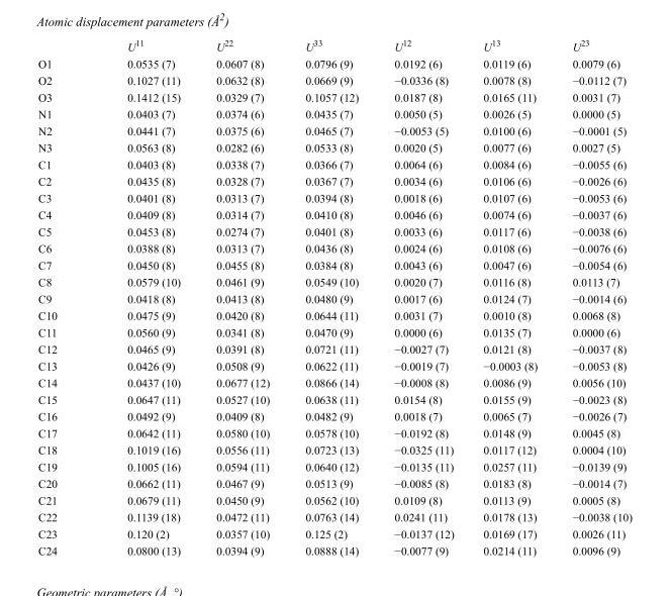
<table><thead><tr><td></td><td>U<sup>11</sup></td><td>U<sup>22</sup></td><td>U<sup>33</sup></td><td>U<sup>12</sup></td><td>U<sup>13</sup></td><td>U<sup>23</sup></td></tr></thead><tbody><tr><td>O1</td><td>0.0535 (7)</td><td>0.0607 (8)</td><td>0.0796 (9)</td><td>0.0192 (6)</td><td>0.0119 (6)</td><td>0.0079 (6)</td></tr><tr><td>O2</td><td>0.1027 (11)</td><td>0.0632 (8)</td><td>0.0669 (9)</td><td>−0.0336 (8)</td><td>0.0078 (8)</td><td>−0.0112 (7)</td></tr><tr><td>O3</td><td>0.1412 (15)</td><td>0.0329 (7)</td><td>0.1057 (12)</td><td>0.0187 (8)</td><td>0.0165 (11)</td><td>0.0031 (7)</td></tr><tr><td>N1</td><td>0.0403 (7)</td><td>0.0374 (6)</td><td>0.0435 (7)</td><td>0.0050 (5)</td><td>0.0026 (5)</td><td>0.0000 (5)</td></tr><tr><td>N2</td><td>0.0441 (7)</td><td>0.0375 (6)</td><td>0.0465 (7)</td><td>−0.0053 (5)</td><td>0.0100 (6)</td><td>−0.0001 (5)</td></tr><tr><td>N3</td><td>0.0563 (8)</td><td>0.0282 (6)</td><td>0.0533 (8)</td><td>0.0020 (5)</td><td>0.0077 (6)</td><td>0.0027 (5)</td></tr><tr><td>C1</td><td>0.0403 (8)</td><td>0.0338 (7)</td><td>0.0366 (7)</td><td>0.0064 (6)</td><td>0.0084 (6)</td><td>−0.0055 (6)</td></tr><tr><td>C2</td><td>0.0435 (8)</td><td>0.0328 (7)</td><td>0.0367 (7)</td><td>0.0034 (6)</td><td>0.0106 (6)</td><td>−0.0026 (6)</td></tr><tr><td>C3</td><td>0.0401 (8)</td><td>0.0313 (7)</td><td>0.0394 (8)</td><td>0.0018 (6)</td><td>0.0107 (6)</td><td>−0.0053 (6)</td></tr><tr><td>C4</td><td>0.0409 (8)</td><td>0.0314 (7)</td><td>0.0410 (8)</td><td>0.0046 (6)</td><td>0.0074 (6)</td><td>−0.0037 (6)</td></tr><tr><td>C5</td><td>0.0453 (8)</td><td>0.0274 (7)</td><td>0.0401 (8)</td><td>0.0033 (6)</td><td>0.0117 (6)</td><td>−0.0038 (6)</td></tr><tr><td>C6</td><td>0.0388 (8)</td><td>0.0313 (7)</td><td>0.0436 (8)</td><td>0.0024 (6)</td><td>0.0108 (6)</td><td>−0.0076 (6)</td></tr><tr><td>C7</td><td>0.0450 (8)</td><td>0.0455 (8)</td><td>0.0384 (8)</td><td>0.0043 (6)</td><td>0.0047 (6)</td><td>−0.0054 (6)</td></tr><tr><td>C8</td><td>0.0579 (10)</td><td>0.0461 (9)</td><td>0.0549 (10)</td><td>0.0020 (7)</td><td>0.0116 (8)</td><td>0.0113 (7)</td></tr><tr><td>C9</td><td>0.0418 (8)</td><td>0.0413 (8)</td><td>0.0480 (9)</td><td>0.0017 (6)</td><td>0.0124 (7)</td><td>−0.0014 (6)</td></tr><tr><td>C10</td><td>0.0475 (9)</td><td>0.0420 (8)</td><td>0.0644 (11)</td><td>0.0031 (7)</td><td>0.0010 (8)</td><td>0.0068 (8)</td></tr><tr><td>C11</td><td>0.0560 (9)</td><td>0.0341 (8)</td><td>0.0470 (9)</td><td>0.0000 (6)</td><td>0.0135 (7)</td><td>0.0000 (6)</td></tr><tr><td>C12</td><td>0.0465 (9)</td><td>0.0391 (8)</td><td>0.0721 (11)</td><td>−0.0027 (7)</td><td>0.0121 (8)</td><td>−0.0037 (8)</td></tr><tr><td>C13</td><td>0.0426 (9)</td><td>0.0508 (9)</td><td>0.0622 (11)</td><td>−0.0019 (7)</td><td>−0.0003 (8)</td><td>−0.0053 (8)</td></tr><tr><td>C14</td><td>0.0437 (10)</td><td>0.0677 (12)</td><td>0.0866 (14)</td><td>−0.0008 (8)</td><td>0.0086 (9)</td><td>0.0056 (10)</td></tr><tr><td>C15</td><td>0.0647 (11)</td><td>0.0527 (10)</td><td>0.0638 (11)</td><td>0.0154 (8)</td><td>0.0155 (9)</td><td>−0.0023 (8)</td></tr><tr><td>C16</td><td>0.0492 (9)</td><td>0.0409 (8)</td><td>0.0482 (9)</td><td>0.0018 (7)</td><td>0.0065 (7)</td><td>−0.0026 (7)</td></tr><tr><td>C17</td><td>0.0642 (11)</td><td>0.0580 (10)</td><td>0.0578 (10)</td><td>−0.0192 (8)</td><td>0.0148 (9)</td><td>0.0045 (8)</td></tr><tr><td>C18</td><td>0.1019 (16)</td><td>0.0556 (11)</td><td>0.0723 (13)</td><td>−0.0325 (11)</td><td>0.0117 (12)</td><td>0.0004 (10)</td></tr><tr><td>C19</td><td>0.1005 (16)</td><td>0.0594 (11)</td><td>0.0640 (12)</td><td>−0.0135 (11)</td><td>0.0257 (11)</td><td>−0.0139 (9)</td></tr><tr><td>C20</td><td>0.0662 (11)</td><td>0.0467 (9)</td><td>0.0513 (9)</td><td>−0.0085 (8)</td><td>0.0183 (8)</td><td>−0.0014 (7)</td></tr><tr><td>C21</td><td>0.0679 (11)</td><td>0.0450 (9)</td><td>0.0562 (10)</td><td>0.0109 (8)</td><td>0.0113 (9)</td><td>0.0005 (8)</td></tr><tr><td>C22</td><td>0.1139 (18)</td><td>0.0472 (11)</td><td>0.0763 (14)</td><td>0.0241 (11)</td><td>0.0178 (13)</td><td>−0.0038 (10)</td></tr><tr><td>C23</td><td>0.120 (2)</td><td>0.0357 (10)</td><td>0.125 (2)</td><td>−0.0137 (12)</td><td>0.0169 (17)</td><td>0.0026 (11)</td></tr><tr><td>C24</td><td>0.0800 (13)</td><td>0.0394 (9)</td><td>0.0888 (14)</td><td>−0.0077 (9)</td><td>0.0214 (11)</td><td>0.0096 (9)</td></tr></tbody></table>